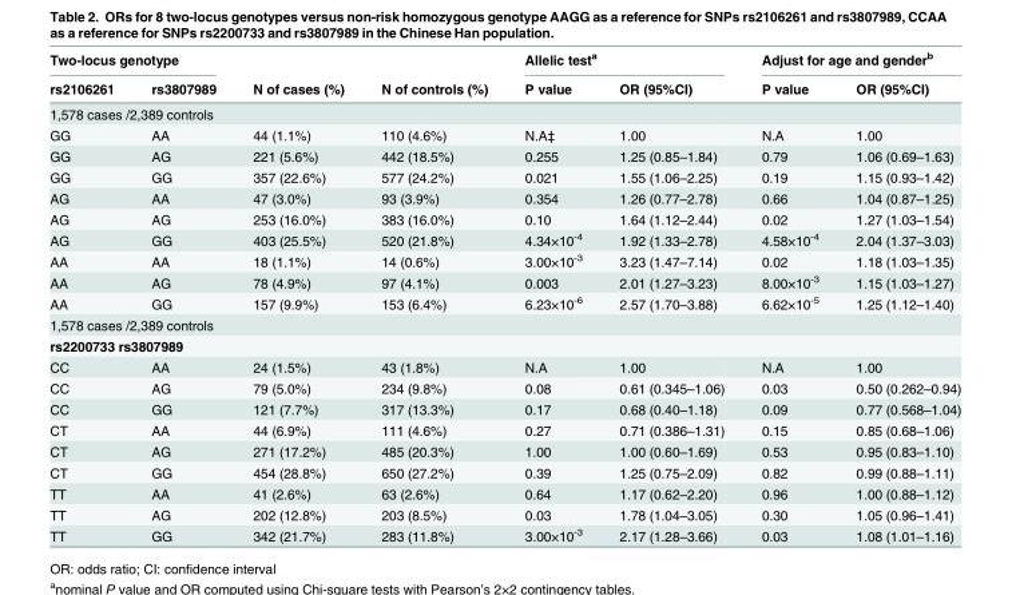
<table><thead><tr><td colspan="2">Two-locus genotype</td><td rowspan="2">N of cases (%)</td><td rowspan="2">N of controls (%)</td><td colspan="2">Allelic test<sup>a</sup></td><td colspan="2">Adjust for age and gender<sup>b</sup></td></tr><tr><td>rs2106261</td><td>rs3807989</td><td>P value</td><td>OR (95%CI)</td><td>P value</td><td>OR (95%CI)</td></tr></thead><tbody><tr><td colspan="8">1,578 cases /2,389 controls</td></tr><tr><td>GG</td><td>AA</td><td>44 (1.1%)</td><td>110 (4.6%)</td><td>N.A‡</td><td>1.00</td><td>N.A</td><td>1.00</td></tr><tr><td>GG</td><td>AG</td><td>221 (5.6%)</td><td>442 (18.5%)</td><td>0.255</td><td>1.25 (0.85–1.84)</td><td>0.79</td><td>1.06 (0.69–1.63)</td></tr><tr><td>GG</td><td>GG</td><td>357 (22.6%)</td><td>577 (24.2%)</td><td>0.021</td><td>1.55 (1.06–2.25)</td><td>0.19</td><td>1.15 (0.93–1.42)</td></tr><tr><td>AG</td><td>AA</td><td>47 (3.0%)</td><td>93 (3.9%)</td><td>0.354</td><td>1.26 (0.77–2.78)</td><td>0.66</td><td>1.04 (0.87–1.25)</td></tr><tr><td>AG</td><td>AG</td><td>253 (16.0%)</td><td>383 (16.0%)</td><td>0.10</td><td>1.64 (1.12–2.44)</td><td>0.02</td><td>1.27 (1.03–1.54)</td></tr><tr><td>AG</td><td>GG</td><td>403 (25.5%)</td><td>520 (21.8%)</td><td>4.34×10<sup>-4</sup></td><td>1.92 (1.33–2.78)</td><td>4.58×10<sup>-4</sup></td><td>2.04 (1.37–3.03)</td></tr><tr><td>AA</td><td>AA</td><td>18 (1.1%)</td><td>14 (0.6%)</td><td>3.00×10<sup>-3</sup></td><td>3.23 (1.47–7.14)</td><td>0.02</td><td>1.18 (1.03–1.35)</td></tr><tr><td>AA</td><td>AG</td><td>78 (4.9%)</td><td>97 (4.1%)</td><td>0.003</td><td>2.01 (1.27–3.23)</td><td>8.00×10<sup>-3</sup></td><td>1.15 (1.03–1.27)</td></tr><tr><td>AA</td><td>GG</td><td>157 (9.9%)</td><td>153 (6.4%)</td><td>6.23×10<sup>-6</sup></td><td>2.57 (1.70–3.88)</td><td>6.62×10<sup>-5</sup></td><td>1.25 (1.12–1.40)</td></tr><tr><td colspan="8">1,578 cases /2,389 controls</td></tr><tr><td colspan="8">rs2200733 rs3807989</td></tr><tr><td>CC</td><td>AA</td><td>24 (1.5%)</td><td>43 (1.8%)</td><td>N.A</td><td>1.00</td><td>N.A</td><td>1.00</td></tr><tr><td>CC</td><td>AG</td><td>79 (5.0%)</td><td>234 (9.8%)</td><td>0.08</td><td>0.61 (0.345–1.06)</td><td>0.03</td><td>0.50 (0.262–0.94)</td></tr><tr><td>CC</td><td>GG</td><td>121 (7.7%)</td><td>317 (13.3%)</td><td>0.17</td><td>0.68 (0.40–1.18)</td><td>0.09</td><td>0.77 (0.568–1.04)</td></tr><tr><td>CT</td><td>AA</td><td>44 (6.9%)</td><td>111 (4.6%)</td><td>0.27</td><td>0.71 (0.386–1.31)</td><td>0.15</td><td>0.85 (0.68–1.06)</td></tr><tr><td>CT</td><td>AG</td><td>271 (17.2%)</td><td>485 (20.3%)</td><td>1.00</td><td>1.00 (0.60–1.69)</td><td>0.53</td><td>0.95 (0.83–1.10)</td></tr><tr><td>CT</td><td>GG</td><td>454 (28.8%)</td><td>650 (27.2%)</td><td>0.39</td><td>1.25 (0.75–2.09)</td><td>0.82</td><td>0.99 (0.88–1.11)</td></tr><tr><td>TT</td><td>AA</td><td>41 (2.6%)</td><td>63 (2.6%)</td><td>0.64</td><td>1.17 (0.62–2.20)</td><td>0.96</td><td>1.00 (0.88–1.12)</td></tr><tr><td>TT</td><td>AG</td><td>202 (12.8%)</td><td>203 (8.5%)</td><td>0.03</td><td>1.78 (1.04–3.05)</td><td>0.30</td><td>1.05 (0.96–1.41)</td></tr><tr><td>TT</td><td>GG</td><td>342 (21.7%)</td><td>283 (11.8%)</td><td>3.00×10<sup>-3</sup></td><td>2.17 (1.28–3.66)</td><td>0.03</td><td>1.08 (1.01–1.16)</td></tr></tbody></table>